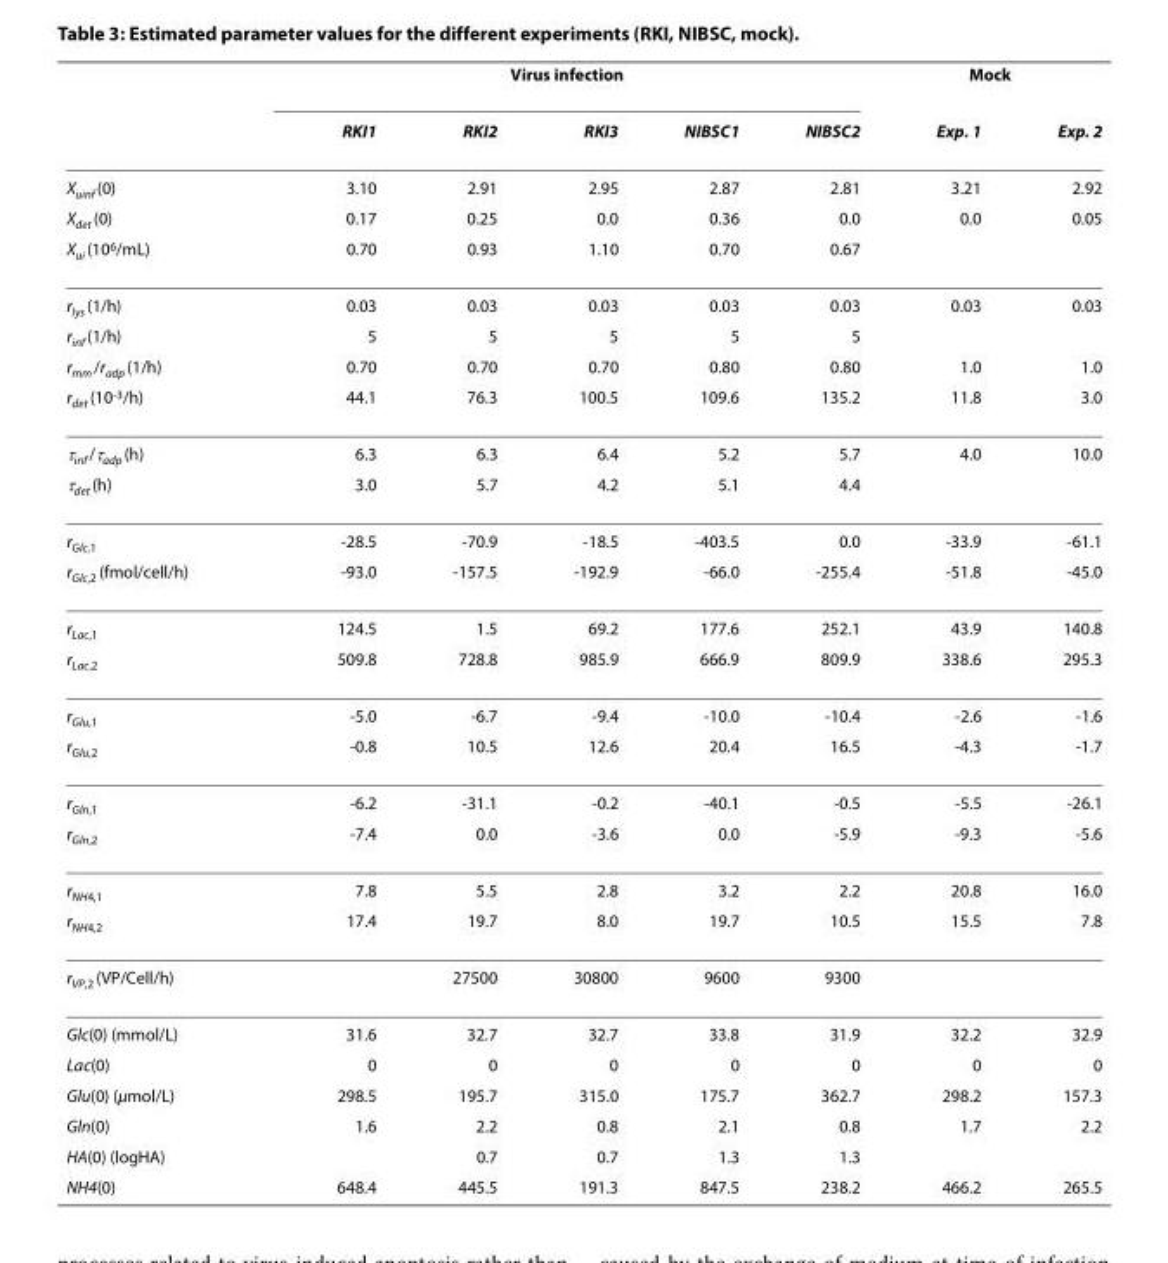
<table><thead><tr><td rowspan="2"></td><td colspan="5">Virus infection</td><td colspan="2">Mock</td></tr><tr><td>RKI1</td><td>RKI2</td><td>RKI3</td><td>NIBSC1</td><td>NIBSC2</td><td>Exp. 1</td><td>Exp. 2</td></tr></thead><tbody><tr><td>X<sub>uinf</sub> (0)</td><td>3.10</td><td>2.91</td><td>2.95</td><td>2.87</td><td>2.81</td><td>3.21</td><td>2.92</td></tr><tr><td>X<sub>det</sub> (0)</td><td>0.17</td><td>0.25</td><td>0.0</td><td>0.36</td><td>0.0</td><td>0.0</td><td>0.05</td></tr><tr><td>X<sub>ui</sub> (10<sup>6</sup>/mL)</td><td>0.70</td><td>0.93</td><td>1.10</td><td>0.70</td><td>0.67</td><td></td><td></td></tr><tr><td>r<sub>lys</sub> (1/h)</td><td>0.03</td><td>0.03</td><td>0.03</td><td>0.03</td><td>0.03</td><td>0.03</td><td>0.03</td></tr><tr><td>r<sub>inf</sub> (1/h)</td><td>5</td><td>5</td><td>5</td><td>5</td><td>5</td><td></td><td></td></tr><tr><td>r<sub>mm</sub> /r<sub>adp</sub> (1/h)</td><td>0.70</td><td>0.70</td><td>0.70</td><td>0.80</td><td>0.80</td><td>1.0</td><td>1.0</td></tr><tr><td>r<sub>det</sub> (10<sup>-3</sup>/h)</td><td>44.1</td><td>76.3</td><td>100.5</td><td>109.6</td><td>135.2</td><td>11.8</td><td>3.0</td></tr><tr><td>τ<sub>inf</sub> /τ<sub>adp</sub> (h)</td><td>6.3</td><td>6.3</td><td>6.4</td><td>5.2</td><td>5.7</td><td>4.0</td><td>10.0</td></tr><tr><td>τ<sub>det</sub> (h)</td><td>3.0</td><td>5.7</td><td>4.2</td><td>5.1</td><td>4.4</td><td></td><td></td></tr><tr><td>r<sub>Glc,1</sub></td><td>-28.5</td><td>-70.9</td><td>-18.5</td><td>-403.5</td><td>0.0</td><td>-33.9</td><td>-61.1</td></tr><tr><td>r<sub>Glc,2</sub> (fmol/cell/h)</td><td>-93.0</td><td>-157.5</td><td>-192.9</td><td>-66.0</td><td>-255.4</td><td>-51.8</td><td>-45.0</td></tr><tr><td>r<sub>Lac,1</sub></td><td>124.5</td><td>1.5</td><td>69.2</td><td>177.6</td><td>252.1</td><td>43.9</td><td>140.8</td></tr><tr><td>r<sub>Lac,2</sub></td><td>509.8</td><td>728.8</td><td>985.9</td><td>666.9</td><td>809.9</td><td>338.6</td><td>295.3</td></tr><tr><td>r<sub>Glu,1</sub></td><td>-5.0</td><td>-6.7</td><td>-9.4</td><td>-10.0</td><td>-10.4</td><td>-2.6</td><td>-1.6</td></tr><tr><td>r<sub>Glu,2</sub></td><td>-0.8</td><td>10.5</td><td>12.6</td><td>20.4</td><td>16.5</td><td>-4.3</td><td>-1.7</td></tr><tr><td>r<sub>Gln,1</sub></td><td>-6.2</td><td>-31.1</td><td>-0.2</td><td>-40.1</td><td>-0.5</td><td>-5.5</td><td>-26.1</td></tr><tr><td>r<sub>Gln,2</sub></td><td>-7.4</td><td>0.0</td><td>-3.6</td><td>0.0</td><td>-5.9</td><td>-9.3</td><td>-5.6</td></tr><tr><td>r<sub>NH4,1</sub></td><td>7.8</td><td>5.5</td><td>2.8</td><td>3.2</td><td>2.2</td><td>20.8</td><td>16.0</td></tr><tr><td>r<sub>NH4,2</sub></td><td>17.4</td><td>19.7</td><td>8.0</td><td>19.7</td><td>10.5</td><td>15.5</td><td>7.8</td></tr><tr><td>r<sub>VP,2</sub> (VP/Cell/h)</td><td></td><td>27500</td><td>30800</td><td>9600</td><td>9300</td><td></td><td></td></tr><tr><td>Glc(0) (mmol/L)</td><td>31.6</td><td>32.7</td><td>32.7</td><td>33.8</td><td>31.9</td><td>32.2</td><td>32.9</td></tr><tr><td>Lac(0)</td><td>0</td><td>0</td><td>0</td><td>0</td><td>0</td><td>0</td><td>0</td></tr><tr><td>Glu(0) (μmol/L)</td><td>298.5</td><td>195.7</td><td>315.0</td><td>175.7</td><td>362.7</td><td>298.2</td><td>157.3</td></tr><tr><td>Gln(0)</td><td>1.6</td><td>2.2</td><td>0.8</td><td>2.1</td><td>0.8</td><td>1.7</td><td>2.2</td></tr><tr><td>HA(0) (logHA)</td><td></td><td>0.7</td><td>0.7</td><td>1.3</td><td>1.3</td><td></td><td></td></tr><tr><td>NH4(0)</td><td>648.4</td><td>445.5</td><td>191.3</td><td>847.5</td><td>238.2</td><td>466.2</td><td>265.5</td></tr></tbody></table>